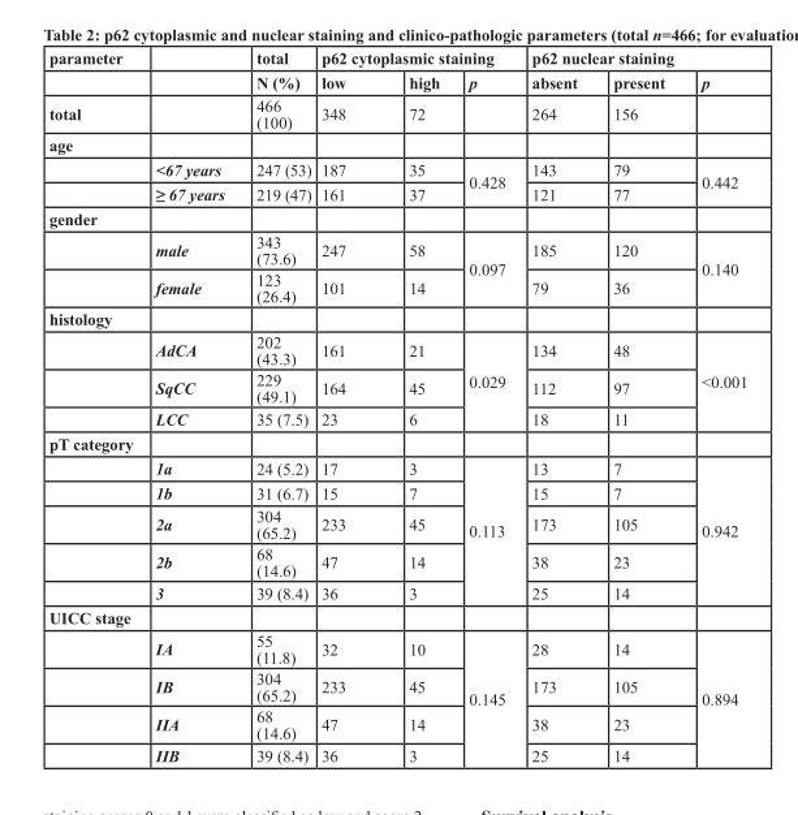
<table><thead><tr><td rowspan="2">parameter</td><td rowspan="2"></td><td rowspan="2">total n (%)</td><td colspan="3">p62 cytoplasmic staining</td><td colspan="3">p62 nuclear staining</td></tr><tr><td>low</td><td>high</td><td>p</td><td>absent</td><td>present</td><td>p</td></tr></thead><tbody><tr><td>total</td><td></td><td>466 (100)</td><td>348</td><td>72</td><td></td><td>264</td><td>156</td><td></td></tr><tr><td colspan="9">age</td></tr><tr><td></td><td>&lt;67 years</td><td>247 (53)</td><td>187</td><td>35</td><td rowspan="2">0.428</td><td>143</td><td>79</td><td rowspan="2">0.442</td></tr><tr><td></td><td>≥ 67 years</td><td>219 (47)</td><td>161</td><td>37</td><td>121</td><td>77</td></tr><tr><td colspan="9">gender</td></tr><tr><td></td><td>male</td><td>343 (73.6)</td><td>247</td><td>58</td><td rowspan="2">0.097</td><td>185</td><td>120</td><td rowspan="2">0.140</td></tr><tr><td></td><td>female</td><td>123 (26.4)</td><td>101</td><td>14</td><td>79</td><td>36</td></tr><tr><td colspan="9">histology</td></tr><tr><td></td><td>AdCA</td><td>202 (43.3)</td><td>161</td><td>21</td><td rowspan="3">0.029</td><td>134</td><td>48</td><td rowspan="3">&lt;0.001</td></tr><tr><td></td><td>SqCC</td><td>229 (49.1)</td><td>164</td><td>45</td><td>112</td><td>97</td></tr><tr><td></td><td>LCC</td><td>35 (7.5)</td><td>23</td><td>6</td><td>18</td><td>11</td></tr><tr><td colspan="9">pt category</td></tr><tr><td></td><td>1a</td><td>24 (5.2)</td><td>17</td><td>3</td><td rowspan="5">0.113</td><td>13</td><td>7</td><td rowspan="5">0.942</td></tr><tr><td></td><td>1b</td><td>31 (6.7)</td><td>15</td><td>7</td><td>15</td><td>7</td></tr><tr><td></td><td>2a</td><td>304 (65.2)</td><td>233</td><td>45</td><td>173</td><td>105</td></tr><tr><td></td><td>2b</td><td>68 (14.6)</td><td>47</td><td>14</td><td>38</td><td>23</td></tr><tr><td></td><td>3</td><td>39 (8.4)</td><td>36</td><td>3</td><td>25</td><td>14</td></tr><tr><td colspan="9">uIcc stage</td></tr><tr><td></td><td>IA</td><td>55 (11.8)</td><td>32</td><td>10</td><td rowspan="4">0.145</td><td>28</td><td>14</td><td rowspan="4">0.894</td></tr><tr><td></td><td>IB</td><td>304 (65.2)</td><td>233</td><td>45</td><td>173</td><td>105</td></tr><tr><td></td><td>IIA</td><td>68 (14.6)</td><td>47</td><td>14</td><td>38</td><td>23</td></tr><tr><td></td><td>IIB</td><td>39 (8.4)</td><td>36</td><td>3</td><td>25</td><td>14</td></tr></tbody></table>